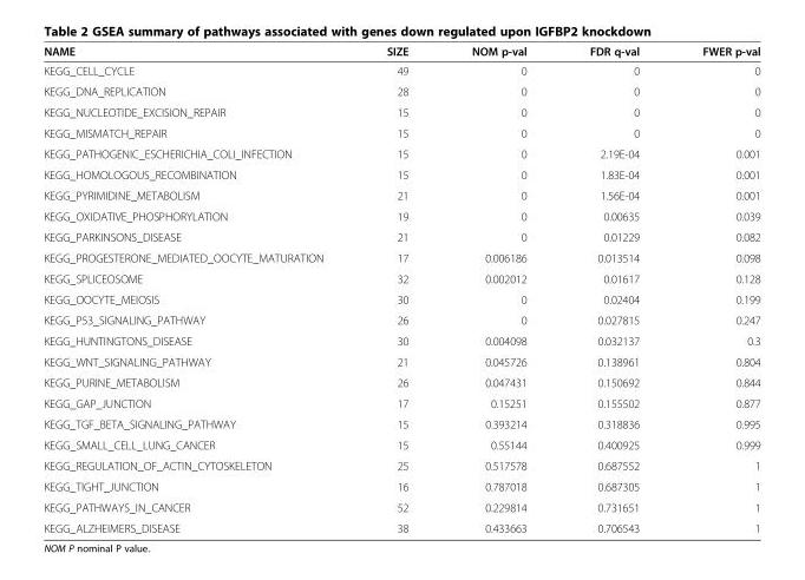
<table><thead><tr><td>NAME</td><td>SIZE</td><td>NOM p-val</td><td>FDR q-val</td><td>FWER p-val</td></tr></thead><tbody><tr><td>KEGG_CELL_CYCLE</td><td>49</td><td>0</td><td>0</td><td>0</td></tr><tr><td>KEGG_DNA_REPLICATION</td><td>28</td><td>0</td><td>0</td><td>0</td></tr><tr><td>KEGG_NUCLEOTIDE_EXCISION_REPAIR</td><td>15</td><td>0</td><td>0</td><td>0</td></tr><tr><td>KEGG_MISMATCH_REPAIR</td><td>15</td><td>0</td><td>0</td><td>0</td></tr><tr><td>KEGG_PATHOGENIC_ESCHERICHIA_COLI_INFECTION</td><td>15</td><td>0</td><td>2.19E-04</td><td>0.001</td></tr><tr><td>KEGG_HOMOLOGOUS_RECOMBINATION</td><td>15</td><td>0</td><td>1.83E-04</td><td>0.001</td></tr><tr><td>KEGG_PYRIMIDINE_METABOLISM</td><td>21</td><td>0</td><td>1.56E-04</td><td>0.001</td></tr><tr><td>KEGG_OXIDATIVE_PHOSPHORYLATION</td><td>19</td><td>0</td><td>0.00635</td><td>0.039</td></tr><tr><td>KEGG_PARKINSONS_DISEASE</td><td>21</td><td>0</td><td>0.01229</td><td>0.082</td></tr><tr><td>KEGG_PROGESTERONE_MEDIATED_OOCYTE_MATURATION</td><td>17</td><td>0.006186</td><td>0.013514</td><td>0.098</td></tr><tr><td>KEGG_SPLICEOSOME</td><td>32</td><td>0.002012</td><td>0.01617</td><td>0.128</td></tr><tr><td>KEGG_OOCYTE_MEIOSIS</td><td>30</td><td>0</td><td>0.02404</td><td>0.199</td></tr><tr><td>KEGG_P53_SIGNALING_PATHWAY</td><td>26</td><td>0</td><td>0.027815</td><td>0.247</td></tr><tr><td>KEGG_HUNTINGTONS_DISEASE</td><td>30</td><td>0.004098</td><td>0.032137</td><td>0.3</td></tr><tr><td>KEGG_WNT_SIGNALING_PATHWAY</td><td>21</td><td>0.045726</td><td>0.138961</td><td>0.804</td></tr><tr><td>KEGG_PURINE_METABOLISM</td><td>26</td><td>0.047431</td><td>0.150692</td><td>0.844</td></tr><tr><td>KEGG_GAP_JUNCTION</td><td>17</td><td>0.15251</td><td>0.155502</td><td>0.877</td></tr><tr><td>KEGG_TGF_BETA_SIGNALING_PATHWAY</td><td>15</td><td>0.393214</td><td>0.318836</td><td>0.995</td></tr><tr><td>KEGG_SMALL_CELL_LUNG_CANCER</td><td>15</td><td>0.55144</td><td>0.400925</td><td>0.999</td></tr><tr><td>KEGG_REGULATION_OF_ACTIN_CYTOSKELETON</td><td>25</td><td>0.517578</td><td>0.687552</td><td>1</td></tr><tr><td>KEGG_TIGHT_JUNCTION</td><td>16</td><td>0.787018</td><td>0.687305</td><td>1</td></tr><tr><td>KEGG_PATHWAYS_IN_CANCER</td><td>52</td><td>0.229814</td><td>0.731651</td><td>1</td></tr><tr><td>KEGG_ALZHEIMERS_DISEASE</td><td>38</td><td>0.433663</td><td>0.706543</td><td>1</td></tr></tbody></table>